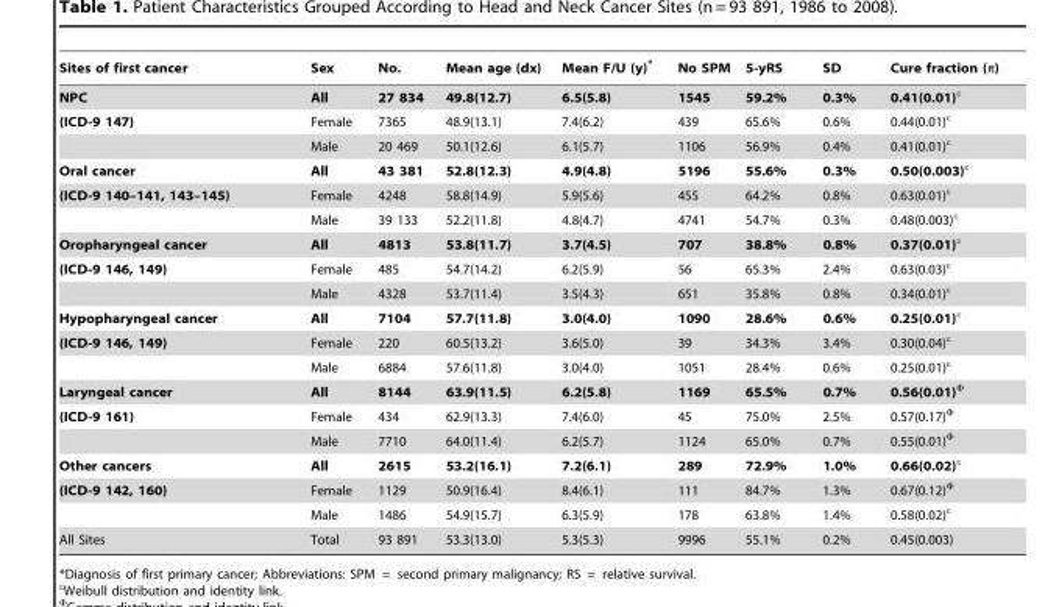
<table><thead><tr><td>Sites of first cancer</td><td>Sex</td><td>No.</td><td>Mean age (dx)</td><td>Mean F/U (y)*</td><td>No SPM</td><td>5-yRS</td><td>SD</td><td>Cure fraction (π)</td></tr></thead><tbody><tr><td>NPC</td><td>All</td><td>27 834</td><td>49.8(12.7)</td><td>6.5(5.8)</td><td>1545</td><td>59.2%</td><td>0.3%</td><td>0.41(0.01)ε</td></tr><tr><td rowspan="2">(ICD-9 147)</td><td>Female</td><td>7365</td><td>48.9(13.1)</td><td>7.4(6.2)</td><td>439</td><td>65.6%</td><td>0.6%</td><td>0.44(0.01)ε</td></tr><tr><td>Male</td><td>20 469</td><td>50.1(12.6)</td><td>6.1(5.7)</td><td>1106</td><td>56.9%</td><td>0.4%</td><td>0.41(0.01)ε</td></tr><tr><td>Oral cancer</td><td>All</td><td>43 381</td><td>52.8(12.3)</td><td>4.9(4.8)</td><td>5196</td><td>55.6%</td><td>0.3%</td><td>0.50(0.003)ε</td></tr><tr><td rowspan="2">(ICD-9 140–141, 143–145)</td><td>Female</td><td>4248</td><td>58.8(14.9)</td><td>5.9(5.6)</td><td>455</td><td>64.2%</td><td>0.8%</td><td>0.63(0.01)ε</td></tr><tr><td>Male</td><td>39 133</td><td>52.2(11.8)</td><td>4.8(4.7)</td><td>4741</td><td>54.7%</td><td>0.3%</td><td>0.48(0.003)ε</td></tr><tr><td>Oropharyngeal cancer</td><td>All</td><td>4813</td><td>53.8(11.7)</td><td>3.7(4.5)</td><td>707</td><td>38.8%</td><td>0.8%</td><td>0.37(0.01)ε</td></tr><tr><td rowspan="2">(ICD-9 146, 149)</td><td>Female</td><td>485</td><td>54.7(14.2)</td><td>6.2(5.9)</td><td>56</td><td>65.3%</td><td>2.4%</td><td>0.63(0.03)ε</td></tr><tr><td>Male</td><td>4328</td><td>53.7(11.4)</td><td>3.5(4.3)</td><td>651</td><td>35.8%</td><td>0.8%</td><td>0.34(0.01)ε</td></tr><tr><td>Hypopharyngeal cancer</td><td>All</td><td>7104</td><td>57.7(11.8)</td><td>3.0(4.0)</td><td>1090</td><td>28.6%</td><td>0.6%</td><td>0.25(0.01)ε</td></tr><tr><td rowspan="2">(ICD-9 146, 149)</td><td>Female</td><td>220</td><td>60.5(13.2)</td><td>3.6(5.0)</td><td>39</td><td>34.3%</td><td>3.4%</td><td>0.30(0.04)ε</td></tr><tr><td>Male</td><td>6884</td><td>57.6(11.8)</td><td>3.0(4.0)</td><td>1051</td><td>28.4%</td><td>0.6%</td><td>0.25(0.01)ε</td></tr><tr><td>Laryngeal cancer</td><td>All</td><td>8144</td><td>63.9(11.5)</td><td>6.2(5.8)</td><td>1169</td><td>65.5%</td><td>0.7%</td><td>0.56(0.01)Φ</td></tr><tr><td rowspan="2">(ICD-9 161)</td><td>Female</td><td>434</td><td>62.9(13.3)</td><td>7.4(6.0)</td><td>45</td><td>75.0%</td><td>2.5%</td><td>0.57(0.17)Φ</td></tr><tr><td>Male</td><td>7710</td><td>64.0(11.4)</td><td>6.2(5.7)</td><td>1124</td><td>65.0%</td><td>0.7%</td><td>0.55(0.01)Φ</td></tr><tr><td>Other cancers</td><td>All</td><td>2615</td><td>53.2(16.1)</td><td>7.2(6.1)</td><td>289</td><td>72.9%</td><td>1.0%</td><td>0.66(0.02)ε</td></tr><tr><td rowspan="2">(ICD-9 142, 160)</td><td>Female</td><td>1129</td><td>50.9(16.4)</td><td>8.4(6.1)</td><td>111</td><td>84.7%</td><td>1.3%</td><td>0.67(0.12)Φ</td></tr><tr><td>Male</td><td>1486</td><td>54.9(15.7)</td><td>6.3(5.9)</td><td>178</td><td>63.8%</td><td>1.4%</td><td>0.58(0.02)ε</td></tr><tr><td>All Sites</td><td>Total</td><td>93 891</td><td>53.3(13.0)</td><td>5.3(5.3)</td><td>9996</td><td>55.1%</td><td>0.2%</td><td>0.45(0.003)</td></tr></tbody></table>